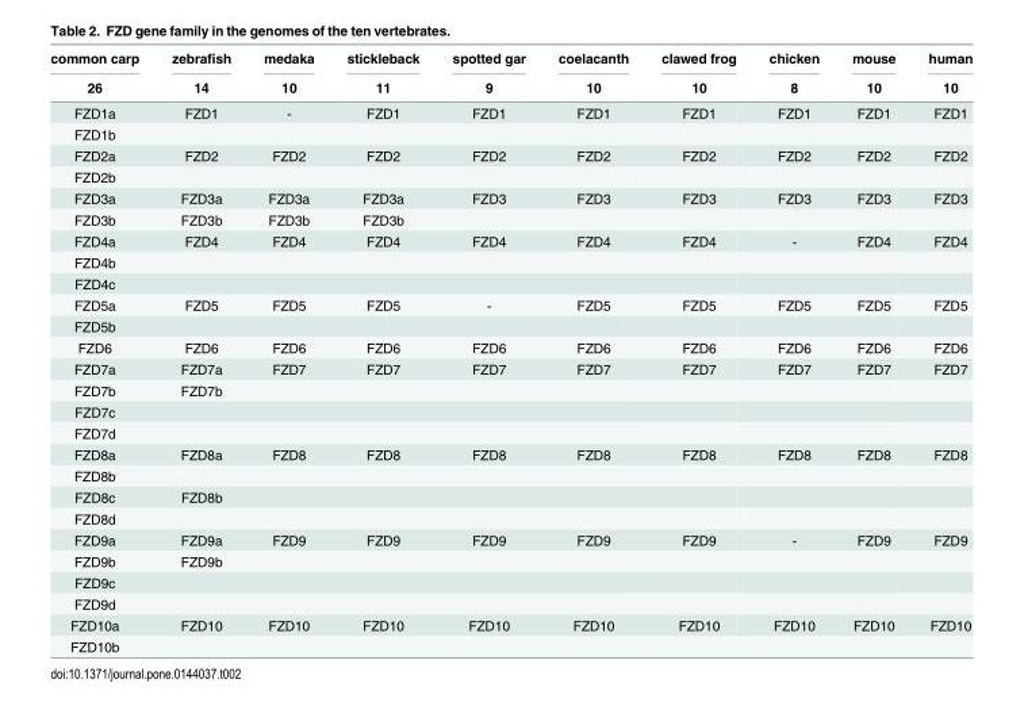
<table><thead><tr><td rowspan="2">common carp 26</td><td rowspan="2">zebrafish 14</td><td rowspan="2">medaka 10</td><td rowspan="2">stickleback 11</td><td rowspan="2">spotted gar 9</td><td rowspan="2">coelacanth 10</td><td rowspan="2">clawed frog 10</td><td rowspan="2">chicken 8</td><td rowspan="2">mouse 10</td><td rowspan="2">human 10</td></tr><tr></tr></thead><tbody><tr><td>FZD1a</td><td>FZD1</td><td>-</td><td>FZD1</td><td>FZD1</td><td>FZD1</td><td>FZD1</td><td>FZD1</td><td>FZD1</td><td>FZD1</td></tr><tr><td colspan="10">FZD1b</td></tr><tr><td>FZD2a</td><td>FZD2</td><td>FZD2</td><td>FZD2</td><td>FZD2</td><td>FZD2</td><td>FZD2</td><td>FZD2</td><td>FZD2</td><td>FZD2</td></tr><tr><td colspan="10">FZD2b</td></tr><tr><td>FZD3a</td><td>FZD3a</td><td>FZD3a</td><td>FZD3a</td><td>FZD3</td><td>FZD3</td><td>FZD3</td><td>FZD3</td><td>FZD3</td><td>FZD3</td></tr><tr><td>FZD3b</td><td>FZD3b</td><td>FZD3b</td><td>FZD3b</td><td></td><td></td><td></td><td></td><td></td><td></td></tr><tr><td>FZD4a</td><td>FZD4</td><td>FZD4</td><td>FZD4</td><td>FZD4</td><td>FZD4</td><td>FZD4</td><td>-</td><td>FZD4</td><td>FZD4</td></tr><tr><td colspan="10">FZD4b</td></tr><tr><td colspan="10">FZD4c</td></tr><tr><td>FZD5a</td><td>FZD5</td><td>FZD5</td><td>FZD5</td><td>-</td><td>FZD5</td><td>FZD5</td><td>FZD5</td><td>FZD5</td><td>FZD5</td></tr><tr><td colspan="10">FZD5b</td></tr><tr><td>FZD6</td><td>FZD6</td><td>FZD6</td><td>FZD6</td><td>FZD6</td><td>FZD6</td><td>FZD6</td><td>FZD6</td><td>FZD6</td><td>FZD6</td></tr><tr><td>FZD7a</td><td>FZD7a</td><td>FZD7</td><td>FZD7</td><td>FZD7</td><td>FZD7</td><td>FZD7</td><td>FZD7</td><td>FZD7</td><td>FZD7</td></tr><tr><td>FZD7b</td><td>FZD7b</td><td></td><td></td><td></td><td></td><td></td><td></td><td></td><td></td></tr><tr><td colspan="10">FZD7c</td></tr><tr><td colspan="10">FZD7d</td></tr><tr><td>FZD8a</td><td>FZD8a</td><td>FZD8</td><td>FZD8</td><td>FZD8</td><td>FZD8</td><td>FZD8</td><td>FZD8</td><td>FZD8</td><td>FZD8</td></tr><tr><td colspan="10">FZD8b</td></tr><tr><td>FZD8c</td><td>FZD8b</td><td></td><td></td><td></td><td></td><td></td><td></td><td></td><td></td></tr><tr><td colspan="10">FZD8d</td></tr><tr><td>FZD9a</td><td>FZD9a</td><td>FZD9</td><td>FZD9</td><td>FZD9</td><td>FZD9</td><td>FZD9</td><td>-</td><td>FZD9</td><td>FZD9</td></tr><tr><td>FZD9b</td><td>FZD9b</td><td></td><td></td><td></td><td></td><td></td><td></td><td></td><td></td></tr><tr><td colspan="10">FZD9c</td></tr><tr><td colspan="10">FZD9d</td></tr><tr><td>FZD10a</td><td>FZD10</td><td>FZD10</td><td>FZD10</td><td>FZD10</td><td>FZD10</td><td>FZD10</td><td>FZD10</td><td>FZD10</td><td>FZD10</td></tr><tr><td>FZD10b</td><td></td><td></td><td></td><td></td><td></td><td></td><td></td><td></td><td></td></tr></tbody></table>